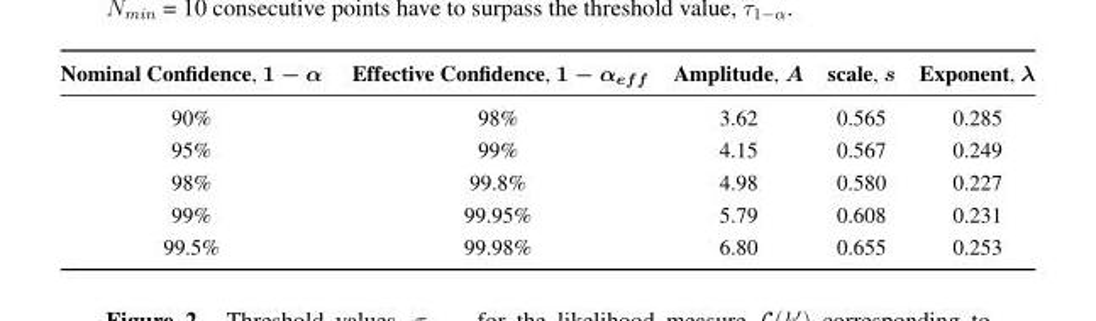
<table><thead><tr><td>Nominal Confidence, 1 − α</td><td>Effective Confidence, 1 − α<sub>eff</sub></td><td>Amplitude, A</td><td>scale, s</td><td>Exponent, λ</td></tr></thead><tbody><tr><td>90%</td><td>98%</td><td>3.62</td><td>0.565</td><td>0.285</td></tr><tr><td>95%</td><td>99%</td><td>4.15</td><td>0.567</td><td>0.249</td></tr><tr><td>98%</td><td>99.8%</td><td>4.98</td><td>0.580</td><td>0.227</td></tr><tr><td>99%</td><td>99.95%</td><td>5.79</td><td>0.608</td><td>0.231</td></tr><tr><td>99.5%</td><td>99.98%</td><td>6.80</td><td>0.655</td><td>0.253</td></tr></tbody></table>